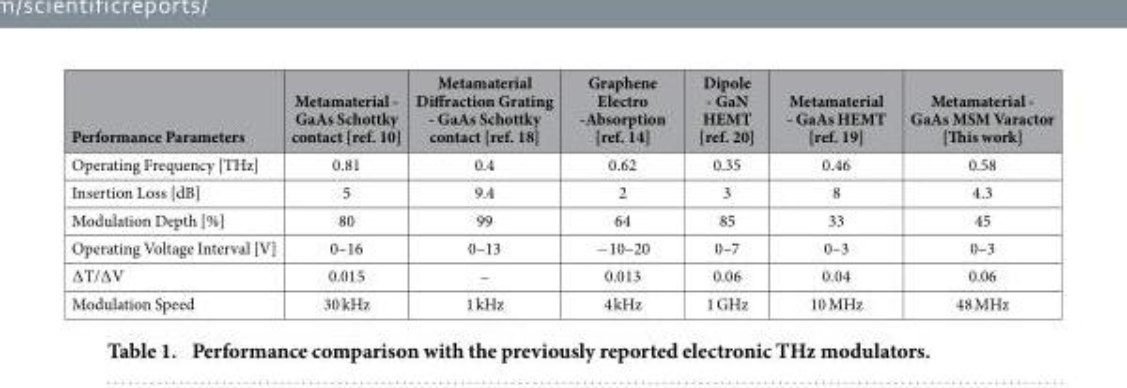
<table><thead><tr><td>Performance Parameters</td><td>Metamaterial - GaAs Schottky contact [ref. 10]</td><td>Metamaterial Diffraction Grating - GaAs Schottky contact [ref. 18]</td><td>Graphene Electro -Absorption [ref. 14]</td><td>Dipole - GaN HEMT [ref. 20]</td><td>Metamaterial - GaAs HEMT [ref. 19]</td><td>Metamaterial - GaAs MSM Varactor [This work]</td></tr></thead><tbody><tr><td>Operating Frequency [THz]</td><td>0.81</td><td>0.4</td><td>0.62</td><td>0.35</td><td>0.46</td><td>0.58</td></tr><tr><td>Insertion Loss [dB]</td><td>5</td><td>9.4</td><td>2</td><td>3</td><td>8</td><td>4.3</td></tr><tr><td>Modulation Depth [%]</td><td>80</td><td>99</td><td>64</td><td>85</td><td>33</td><td>45</td></tr><tr><td>Operating Voltage Interval [V]</td><td>0–16</td><td>0–13</td><td>− 10–20</td><td>0–7</td><td>0–3</td><td>0–3</td></tr><tr><td>∆ T/∆ V</td><td>0.015</td><td>–</td><td>0.013</td><td>0.06</td><td>0.04</td><td>0.06</td></tr><tr><td>Modulation Speed</td><td>30 kHz</td><td>1 kHz</td><td>4 kHz</td><td>1 GHz</td><td>10 MHz</td><td>48 MHz</td></tr></tbody></table>